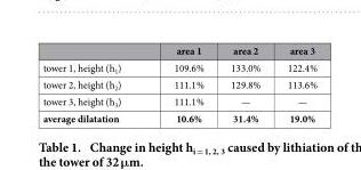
<table><thead><tr><td></td><td>area 1</td><td>area 2</td><td>area 3</td></tr></thead><tbody><tr><td>tower 1, height (h<sub>1</sub>)</td><td>109.6%</td><td>133.0%</td><td>122.4%</td></tr><tr><td>tower 2, height (h<sub>2</sub>)</td><td>111.1%</td><td>129.8%</td><td>113.6%</td></tr><tr><td>tower 3, height (h<sub>3</sub>)</td><td>111.1%</td><td>—</td><td>—</td></tr><tr><td>average dilatation</td><td>10.6%</td><td>31.4%</td><td>19.0%</td></tr></tbody></table>